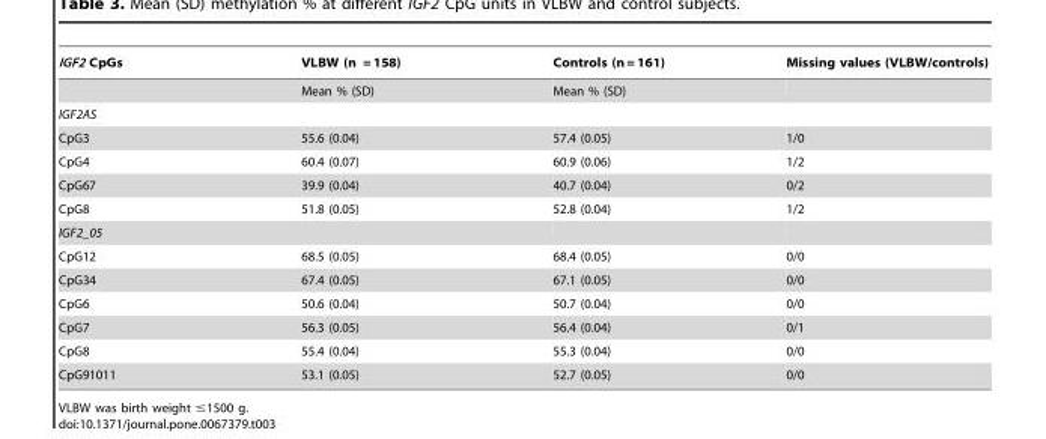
<table><thead><tr><td>IGF2 CpGs</td><td>VLBW (n = 158)</td><td>Controls (n = 161)</td><td>Missing values (VLBW/controls)</td></tr></thead><tbody><tr><td></td><td>Mean % (SD)</td><td>Mean % (SD)</td><td></td></tr><tr><td colspan="4">IGF2AS</td></tr><tr><td>CpG3</td><td>55.6 (0.04)</td><td>57.4 (0.05)</td><td>1/0</td></tr><tr><td>CpG4</td><td>60.4 (0.07)</td><td>60.9 (0.06)</td><td>1/2</td></tr><tr><td>CpG67</td><td>39.9 (0.04)</td><td>40.7 (0.04)</td><td>0/2</td></tr><tr><td>CpG8</td><td>51.8 (0.05)</td><td>52.8 (0.04)</td><td>1/2</td></tr><tr><td colspan="4">IGF2_05</td></tr><tr><td>CpG12</td><td>68.5 (0.05)</td><td>68.4 (0.05)</td><td>0/0</td></tr><tr><td>CpG34</td><td>67.4 (0.05)</td><td>67.1 (0.05)</td><td>0/0</td></tr><tr><td>CpG6</td><td>50.6 (0.04)</td><td>50.7 (0.04)</td><td>0/0</td></tr><tr><td>CpG7</td><td>56.3 (0.05)</td><td>56.4 (0.04)</td><td>0/1</td></tr><tr><td>CpG8</td><td>55.4 (0.04)</td><td>55.3 (0.04)</td><td>0/0</td></tr><tr><td>CpG91011</td><td>53.1 (0.05)</td><td>52.7 (0.05)</td><td>0/0</td></tr></tbody></table>